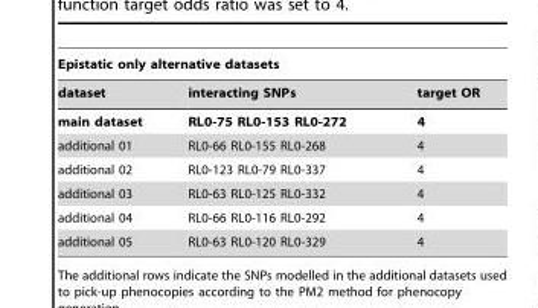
<table><thead><tr><td colspan="3">Epistatic only alternative datasets</td></tr><tr><td>dataset</td><td>interacting SNPs</td><td>target OR</td></tr></thead><tbody><tr><td>main dataset</td><td>RL0-75 RL0-153 RL0-272</td><td>4</td></tr><tr><td>additional 01</td><td>RL0-66 RL0-155 RL0-268</td><td>4</td></tr><tr><td>additional 02</td><td>RL0-123 RL0-79 RL0-337</td><td>4</td></tr><tr><td>additional 03</td><td>RL0-63 RL0-125 RL0-332</td><td>4</td></tr><tr><td>additional 04</td><td>RL0-66 RL0-116 RL0-292</td><td>4</td></tr><tr><td>additional 05</td><td>RL0-63 RL0-120 RL0-329</td><td>4</td></tr></tbody></table>